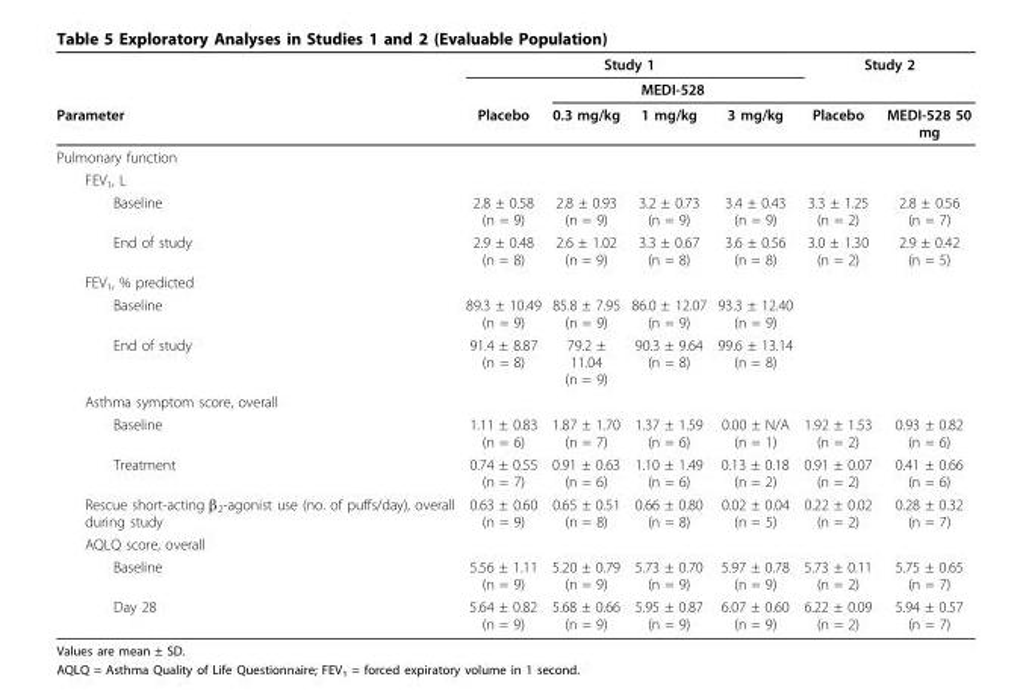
<table><thead><tr><td rowspan="3">Parameter</td><td colspan="4">Study 1</td><td colspan="2">Study 2</td></tr><tr><td rowspan="2">Placebo</td><td colspan="3">MEDI-528</td><td rowspan="2">Placebo</td><td rowspan="2">MEDI-528 50 mg</td></tr><tr><td>0.3 mg/kg</td><td>1 mg/kg</td><td>3 mg/kg</td></tr></thead><tbody><tr><td colspan="7">Pulmonary function</td></tr><tr><td colspan="7">FEV<sub>1</sub>, L</td></tr><tr><td>Baseline</td><td>2.8 ± 0.58 (n = 9)</td><td>2.8 ± 0.93 (n = 9)</td><td>3.2 ± 0.73 (n = 9)</td><td>3.4 ± 0.43 (n = 9)</td><td>3.3 ± 1.25 (n = 2)</td><td>2.8 ± 0.56 (n = 7)</td></tr><tr><td>End of study</td><td>2.9 ± 0.48 (n = 8)</td><td>2.6 ± 1.02 (n = 9)</td><td>3.3 ± 0.67 (n = 8)</td><td>3.6 ± 0.56 (n = 8)</td><td>3.0 ± 1.30 (n = 2)</td><td>2.9 ± 0.42 (n = 5)</td></tr><tr><td colspan="7">FEV<sub>1</sub>, % predicted</td></tr><tr><td>Baseline</td><td>89.3 ± 10.49 (n = 9)</td><td>85.8 ± 7.95 (n = 9)</td><td>86.0 ± 12.07 (n = 9)</td><td>93.3 ± 12.40 (n = 9)</td><td></td><td></td></tr><tr><td>End of study</td><td>91.4 ± 8.87 (n = 8)</td><td>79.2 ± 11.04 (n = 9)</td><td>90.3 ± 9.64 (n = 8)</td><td>99.6 ± 13.14 (n = 8)</td><td></td><td></td></tr><tr><td colspan="7">Asthma symptom score, overall</td></tr><tr><td>Baseline</td><td>1.11 ± 0.83 (n = 6)</td><td>1.87 ± 1.70 (n = 7)</td><td>1.37 ± 1.59 (n = 6)</td><td>0.00 ± N/A (n = 1)</td><td>1.92 ± 1.53 (n = 2)</td><td>0.93 ± 0.82 (n = 6)</td></tr><tr><td>Treatment</td><td>0.74 ± 0.55 (n = 7)</td><td>0.91 ± 0.63 (n = 6)</td><td>1.10 ± 1.49 (n = 6)</td><td>0.13 ± 0.18 (n = 2)</td><td>0.91 ± 0.07 (n = 2)</td><td>0.41 ± 0.66 (n = 6)</td></tr><tr><td>Rescue short-acting β<sub>2</sub>-agonist use (no. of puffs/day), overall during study</td><td>0.63 ± 0.60 (n = 9)</td><td>0.65 ± 0.51 (n = 8)</td><td>0.66 ± 0.80 (n = 8)</td><td>0.02 ± 0.04 (n = 5)</td><td>0.22 ± 0.02 (n = 2)</td><td>0.28 ± 0.32 (n = 7)</td></tr><tr><td colspan="7">AQLQ score, overall</td></tr><tr><td>Baseline</td><td>5.56 ± 1.11 (n = 9)</td><td>5.20 ± 0.79 (n = 9)</td><td>5.73 ± 0.70 (n = 9)</td><td>5.97 ± 0.78 (n = 9)</td><td>5.73 ± 0.11 (n = 2)</td><td>5.75 ± 0.65 (n = 7)</td></tr><tr><td>Day 28</td><td>5.64 ± 0.82 (n = 9)</td><td>5.68 ± 0.66 (n = 9)</td><td>5.95 ± 0.87 (n = 9)</td><td>6.07 ± 0.60 (n = 9)</td><td>6.22 ± 0.09 (n = 2)</td><td>5.94 ± 0.57 (n = 7)</td></tr></tbody></table>